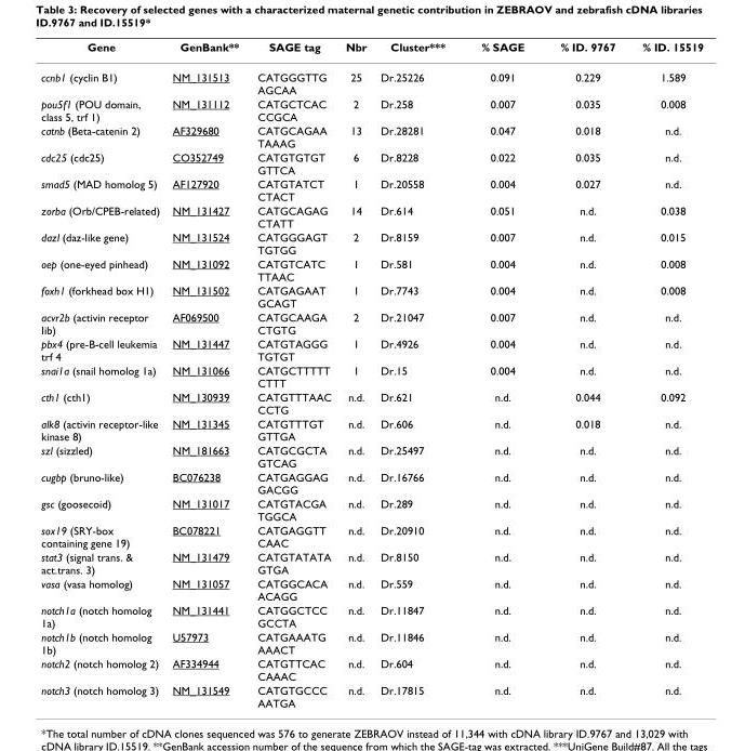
<table><thead><tr><td>Gene</td><td>GenBank**</td><td>SAGE tag</td><td>Nbr</td><td>Cluster***</td><td>% SAGE</td><td>% ID. 9767</td><td>% ID. 15519</td></tr></thead><tbody><tr><td>ccnb1 (cyclin B1)</td><td>NM_131513</td><td>CATGGGTTG AGCAA</td><td>25</td><td>Dr.25226</td><td>0.091</td><td>0.229</td><td>1.589</td></tr><tr><td>pou5f1 (POU domain, class 5, trf 1)</td><td>NM_131112</td><td>CATGCTCAC CCGCA</td><td>2</td><td>Dr.258</td><td>0.007</td><td>0.035</td><td>0.008</td></tr><tr><td>catnb (Beta-catenin 2)</td><td>AF329680</td><td>CATGCAGAA TAAAG</td><td>13</td><td>Dr.28281</td><td>0.047</td><td>0.018</td><td>n.d.</td></tr><tr><td>cdc25 (cdc25)</td><td>CO352749</td><td>CATGTGTGT GTTCA</td><td>6</td><td>Dr.8228</td><td>0.022</td><td>0.035</td><td>n.d.</td></tr><tr><td>smad5 (MAD homolog 5)</td><td>AF127920</td><td>CATGTATCT CTACT</td><td>1</td><td>Dr.20558</td><td>0.004</td><td>0.027</td><td>n.d.</td></tr><tr><td>zorba (Orb/CPEB-related)</td><td>NM_131427</td><td>CATGCAGAG CTATT</td><td>14</td><td>Dr.614</td><td>0.051</td><td>n.d.</td><td>0.038</td></tr><tr><td>dazl (daz-like gene)</td><td>NM_131524</td><td>CATGGGAGT TGTGG</td><td>2</td><td>Dr.8159</td><td>0.007</td><td>n.d.</td><td>0.015</td></tr><tr><td>oep (one-eyed pinhead)</td><td>NM_131092</td><td>CATGTCATC TTAAC</td><td>1</td><td>Dr.581</td><td>0.004</td><td>n.d.</td><td>0.008</td></tr><tr><td>foxh1 (forkhead box H1)</td><td>NM_131502</td><td>CATGAGAAT GCAGT</td><td>1</td><td>Dr.7743</td><td>0.004</td><td>n.d.</td><td>0.008</td></tr><tr><td>acvr2b (activin receptor Iib)</td><td>AF069500</td><td>CATGCAAGA CTGTG</td><td>2</td><td>Dr.21047</td><td>0.007</td><td>n.d.</td><td>n.d.</td></tr><tr><td>pbx4 (pre-B-cell leukemia trf 4</td><td>NM_131447</td><td>CATGTAGGG TGTGT</td><td>1</td><td>Dr.4926</td><td>0.004</td><td>n.d.</td><td>n.d.</td></tr><tr><td>snai1a (snail homolog 1a)</td><td>NM_131066</td><td>CATGCTTTTT CTTT</td><td>1</td><td>Dr.15</td><td>0.004</td><td>n.d.</td><td>n.d.</td></tr><tr><td>cth1 (cth1)</td><td>NM_130939</td><td>CATGTTTAAC CCTG</td><td>n.d.</td><td>Dr.621</td><td>n.d.</td><td>0.044</td><td>0.092</td></tr><tr><td>alk8 (activin receptor-like kinase 8)</td><td>NM_131345</td><td>CATGTTTGT GTTGA</td><td>n.d.</td><td>Dr.606</td><td>n.d.</td><td>0.018</td><td>n.d.</td></tr><tr><td>szl (sizzled)</td><td>NM_181663</td><td>CATGCGCTA GTCAG</td><td>n.d.</td><td>Dr.25497</td><td>n.d.</td><td>n.d.</td><td>n.d.</td></tr><tr><td>cugbp (bruno-like)</td><td>BC076238</td><td>CATGAGGAG GACGG</td><td>n.d.</td><td>Dr.16766</td><td>n.d.</td><td>n.d.</td><td>n.d.</td></tr><tr><td>gsc (goosecoid)</td><td>NM_131017</td><td>CATGTACGA TGGCA</td><td>n.d.</td><td>Dr.289</td><td>n.d.</td><td>n.d.</td><td>n.d.</td></tr><tr><td>sox19 (SRY-box containing gene 19)</td><td>BC078221</td><td>CATGAGGTT CAAC</td><td>n.d.</td><td>Dr.20910</td><td>n.d.</td><td>n.d.</td><td>n.d.</td></tr><tr><td>stat3 (signal trans. &amp; act.trans. 3)</td><td>NM_131479</td><td>CATGTATATA GTGA</td><td>n.d.</td><td>Dr.8150</td><td>n.d.</td><td>n.d.</td><td>n.d.</td></tr><tr><td>vasa (vasa homolog)</td><td>NM_131057</td><td>CATGGCACA ACAGG</td><td>n.d.</td><td>Dr.559</td><td>n.d.</td><td>n.d.</td><td>n.d.</td></tr><tr><td>notch1a (notch homolog 1a)</td><td>NM_131441</td><td>CATGGCTCC GCCTA</td><td>n.d.</td><td>Dr.11847</td><td>n.d.</td><td>n.d.</td><td>n.d.</td></tr><tr><td>notch1b (notch homolog 1b)</td><td>U57973</td><td>CATGAAATG AAACT</td><td>n.d.</td><td>Dr.11846</td><td>n.d.</td><td>n.d.</td><td>n.d.</td></tr><tr><td>notch2 (notch homolog 2)</td><td>AF334944</td><td>CATGTTCAC CAAAC</td><td>n.d.</td><td>Dr.604</td><td>n.d.</td><td>n.d.</td><td>n.d.</td></tr><tr><td>notch3 (notch homolog 3)</td><td>NM_131549</td><td>CATGTGCCC AATGA</td><td>n.d.</td><td>Dr.17815</td><td>n.d.</td><td>n.d.</td><td>n.d.</td></tr></tbody></table>